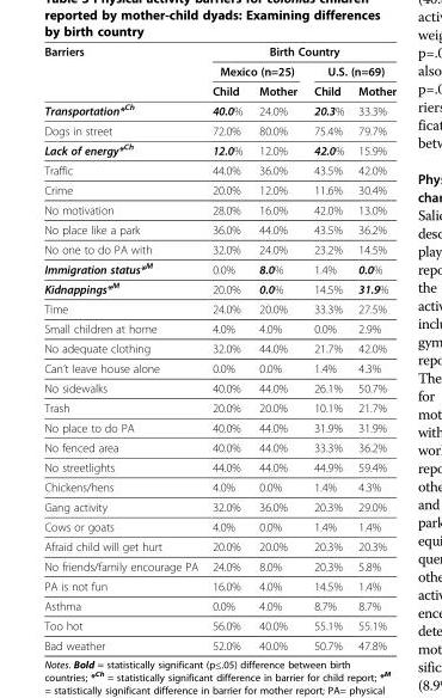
<table><thead><tr><td rowspan="3">Barriers</td><td colspan="4">Birth Country</td></tr><tr><td colspan="2">Mexico (n=25)</td><td colspan="2">U.S. (n=69)</td></tr><tr><td>Child</td><td>Mother</td><td>Child</td><td>Mother</td></tr></thead><tbody><tr><td>Transportation*<sup>Ch</sup></td><td>40.0%</td><td>24.0%</td><td>20.3%</td><td>33.3%</td></tr><tr><td>Dogs in street</td><td>72.0%</td><td>80.0%</td><td>75.4%</td><td>79.7%</td></tr><tr><td>Lack of energy*<sup>Ch</sup></td><td>12.0%</td><td>12.0%</td><td>42.0%</td><td>15.9%</td></tr><tr><td>Traffic</td><td>44.0%</td><td>36.0%</td><td>43.5%</td><td>42.0%</td></tr><tr><td>Crime</td><td>20.0%</td><td>12.0%</td><td>11.6%</td><td>30.4%</td></tr><tr><td>No motivation</td><td>28.0%</td><td>16.0%</td><td>42.0%</td><td>13.0%</td></tr><tr><td>No place like a park</td><td>36.0%</td><td>44.0%</td><td>43.5%</td><td>36.2%</td></tr><tr><td>No one to do PA with</td><td>32.0%</td><td>24.0%</td><td>23.2%</td><td>14.5%</td></tr><tr><td>Immigration status*<sup>M</sup></td><td>0.0%</td><td>8.0%</td><td>1.4%</td><td>0.0%</td></tr><tr><td>Kidnappings*<sup>M</sup></td><td>20.0%</td><td>0.0%</td><td>14.5%</td><td>31.9%</td></tr><tr><td>Time</td><td>24.0%</td><td>20.0%</td><td>33.3%</td><td>27.5%</td></tr><tr><td>Small children at home</td><td>4.0%</td><td>4.0%</td><td>0.0%</td><td>2.9%</td></tr><tr><td>No adequate clothing</td><td>32.0%</td><td>44.0%</td><td>21.7%</td><td>42.0%</td></tr><tr><td>Can’t leave house alone</td><td>0.0%</td><td>0.0%</td><td>1.4%</td><td>4.3%</td></tr><tr><td>No sidewalks</td><td>40.0%</td><td>44.0%</td><td>26.1%</td><td>50.7%</td></tr><tr><td>Trash</td><td>20.0%</td><td>20.0%</td><td>10.1%</td><td>21.7%</td></tr><tr><td>No place to do PA</td><td>40.0%</td><td>44.0%</td><td>31.9%</td><td>31.9%</td></tr><tr><td>No fenced area</td><td>40.0%</td><td>44.0%</td><td>33.3%</td><td>36.2%</td></tr><tr><td>No streetlights</td><td>44.0%</td><td>44.0%</td><td>44.9%</td><td>59.4%</td></tr><tr><td>Chickens/hens</td><td>4.0%</td><td>0.0%</td><td>1.4%</td><td>4.3%</td></tr><tr><td>Gang activity</td><td>32.0%</td><td>36.0%</td><td>20.3%</td><td>29.0%</td></tr><tr><td>Cows or goats</td><td>4.0%</td><td>0.0%</td><td>1.4%</td><td>1.4%</td></tr><tr><td>Afraid child will get hurt</td><td>20.0%</td><td>20.0%</td><td>20.3%</td><td>20.3%</td></tr><tr><td>No friends/family encourage PA</td><td>24.0%</td><td>8.0%</td><td>20.3%</td><td>5.8%</td></tr><tr><td>PA is not fun</td><td>16.0%</td><td>4.0%</td><td>14.5%</td><td>1.4%</td></tr><tr><td>Asthma</td><td>0.0%</td><td>4.0%</td><td>8.7%</td><td>8.7%</td></tr><tr><td>Too hot</td><td>56.0%</td><td>40.0%</td><td>55.1%</td><td>55.1%</td></tr><tr><td>Bad weather</td><td>52.0%</td><td>40.0%</td><td>50.7%</td><td>47.8%</td></tr></tbody></table>